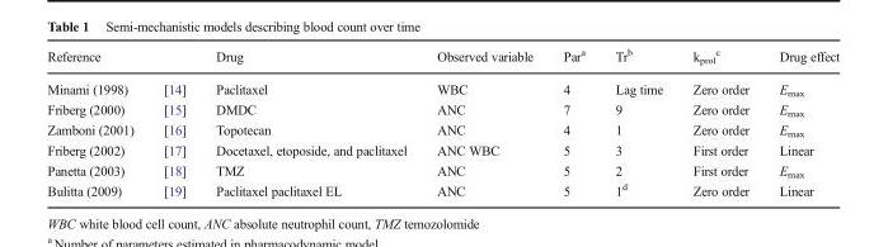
<table><thead><tr><td>Reference</td><td></td><td>Drug</td><td>Observed variable</td><td>Par<sup>a</sup></td><td>Tr<sup>b</sup></td><td>k<sub>prol</sub> <sup>c</sup></td><td>Drug effect</td></tr></thead><tbody><tr><td>Minami (1998)</td><td>[14]</td><td>Paclitaxel</td><td>WBC</td><td>4</td><td>Lag time</td><td>Zero order</td><td>E<sub>max</sub></td></tr><tr><td>Friberg (2000)</td><td>[15]</td><td>DMDC</td><td>ANC</td><td>7</td><td>9</td><td>Zero order</td><td>E<sub>max</sub></td></tr><tr><td>Zamboni (2001)</td><td>[16]</td><td>Topotecan</td><td>ANC</td><td>4</td><td>1</td><td>Zero order</td><td>E<sub>max</sub></td></tr><tr><td>Friberg (2002)</td><td>[17]</td><td>Docetaxel, etoposide, and paclitaxel</td><td>ANC WBC</td><td>5</td><td>3</td><td>First order</td><td>Linear</td></tr><tr><td>Panetta (2003)</td><td>[18]</td><td>TMZ</td><td>ANC</td><td>5</td><td>2</td><td>First order</td><td>E<sub>max</sub></td></tr><tr><td>Bulitta (2009)</td><td>[19]</td><td>Paclitaxel paclitaxel EL</td><td>ANC</td><td>5</td><td>1<sup>d</sup></td><td>Zero order</td><td>Linear</td></tr></tbody></table>